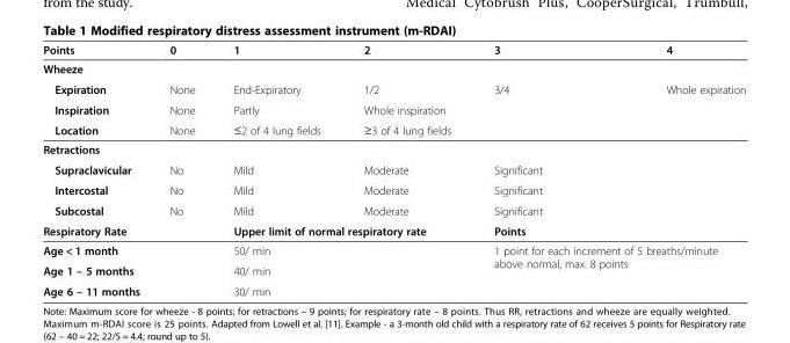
<table><thead><tr><td>Points</td><td>0</td><td>1</td><td>2</td><td>3</td><td>4</td></tr></thead><tbody><tr><td colspan="6">Wheeze</td></tr><tr><td>Expiration</td><td>None</td><td>End-Expiratory</td><td>1/2</td><td>3/4</td><td>Whole expiration</td></tr><tr><td>Inspiration</td><td>None</td><td>Partly</td><td>Whole inspiration</td><td></td><td></td></tr><tr><td>Location</td><td>None</td><td>≤2 of 4 lung fields</td><td>≥3 of 4 lung fields</td><td></td><td></td></tr><tr><td colspan="6">Retractions</td></tr><tr><td>Supraclavicular</td><td>No</td><td>Mild</td><td>Moderate</td><td>Significant</td><td></td></tr><tr><td>Intercostal</td><td>No</td><td>Mild</td><td>Moderate</td><td>Significant</td><td></td></tr><tr><td>Subcostal</td><td>No</td><td>Mild</td><td>Moderate</td><td>Significant</td><td></td></tr><tr><td colspan="2">Respiratory Rate</td><td colspan="2">Upper limit of normal respiratory rate</td><td colspan="2">Points</td></tr><tr><td colspan="2">Age &lt; 1 month</td><td colspan="2">50/ min</td><td rowspan="3" colspan="2">1 point for each increment of 5 breaths/minute above normal, max. 8 points</td></tr><tr><td colspan="2">Age 1 – 5 months</td><td colspan="2">40/ min</td></tr><tr><td colspan="2">Age 6 – 11 months</td><td colspan="2">30/ min</td></tr></tbody></table>